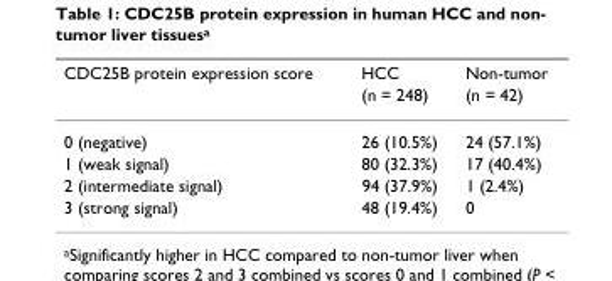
<table><thead><tr><td rowspan="2">CDC25B protein expression score</td><td rowspan="2">HCC (n = 248)</td><td rowspan="2">Non-tumor (n = 42)</td></tr><tr></tr></thead><tbody><tr><td>0 (negative)</td><td>26 (10.5%)</td><td>24 (57.1%)</td></tr><tr><td>1 (weak signal)</td><td>80 (32.3%)</td><td>17 (40.4%)</td></tr><tr><td>2 (intermediate signal)</td><td>94 (37.9%)</td><td>1 (2.4%)</td></tr><tr><td>3 (strong signal)</td><td>48 (19.4%)</td><td>0</td></tr></tbody></table>